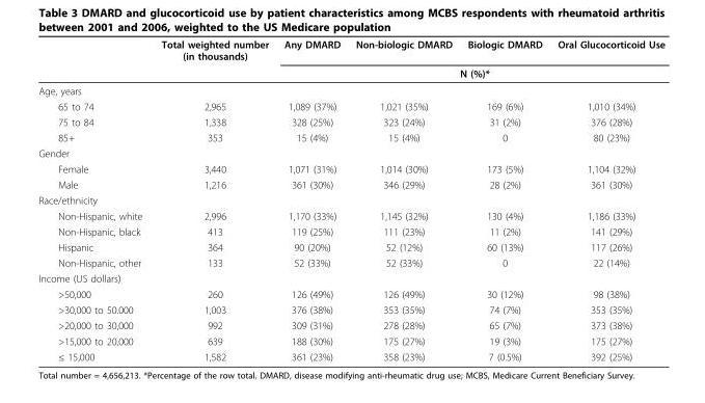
<table><thead><tr><td rowspan="2"></td><td rowspan="2">Total weighted number (in thousands)</td><td>Any DMARD</td><td>Non-biologic DMARD</td><td>Biologic DMARD</td><td>Oral Glucocorticoid Use</td></tr><tr><td colspan="4">N (%)*</td></tr></thead><tbody><tr><td colspan="6">Age, years</td></tr><tr><td>65 to 74</td><td>2,965</td><td>1,089 (37%)</td><td>1,021 (35%)</td><td>169 (6%)</td><td>1,010 (34%)</td></tr><tr><td>75 to 84</td><td>1,338</td><td>328 (25%)</td><td>323 (24%)</td><td>31 (2%)</td><td>376 (28%)</td></tr><tr><td>85+</td><td>353</td><td>15 (4%)</td><td>15 (4%)</td><td>0</td><td>80 (23%)</td></tr><tr><td colspan="6">Gender</td></tr><tr><td>Female</td><td>3,440</td><td>1,071 (31%)</td><td>1,014 (30%)</td><td>173 (5%)</td><td>1,104 (32%)</td></tr><tr><td>Male</td><td>1,216</td><td>361 (30%)</td><td>346 (29%)</td><td>28 (2%)</td><td>361 (30%)</td></tr><tr><td colspan="6">Race/ethnicity</td></tr><tr><td>Non-Hispanic, white</td><td>2,996</td><td>1,170 (33%)</td><td>1,145 (32%)</td><td>130 (4%)</td><td>1,186 (33%)</td></tr><tr><td>Non-Hispanic, black</td><td>413</td><td>119 (25%)</td><td>111 (23%)</td><td>11 (2%)</td><td>141 (29%)</td></tr><tr><td>Hispanic</td><td>364</td><td>90 (20%)</td><td>52 (12%)</td><td>60 (13%)</td><td>117 (26%)</td></tr><tr><td>Non-Hispanic, other</td><td>133</td><td>52 (33%)</td><td>52 (33%)</td><td>0</td><td>22 (14%)</td></tr><tr><td colspan="6">Income (US dollars)</td></tr><tr><td>&gt;50,000</td><td>260</td><td>126 (49%)</td><td>126 (49%)</td><td>30 (12%)</td><td>98 (38%)</td></tr><tr><td>&gt;30,000 to 50.000</td><td>1,003</td><td>376 (38%)</td><td>353 (35%)</td><td>74 (7%)</td><td>353 (35%)</td></tr><tr><td>&gt;20,000 to 30,000</td><td>992</td><td>309 (31%)</td><td>278 (28%)</td><td>65 (7%)</td><td>373 (38%)</td></tr><tr><td>&gt;15,000 to 20,000</td><td>639</td><td>188 (30%)</td><td>175 (27%)</td><td>19 (3%)</td><td>175 (27%)</td></tr><tr><td>≤ 15,000</td><td>1,582</td><td>361 (23%)</td><td>358 (23%)</td><td>7 (0.5%)</td><td>392 (25%)</td></tr></tbody></table>